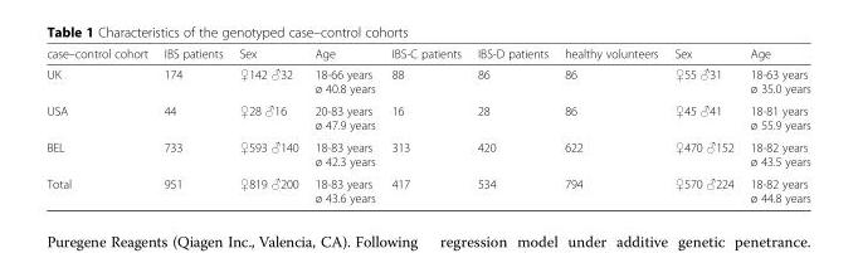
<table><thead><tr><td>case–control cohort</td><td>IBS patients</td><td>Sex</td><td>Age</td><td>IBS-C patients</td><td>IBS-D patients</td><td>healthy volunteers</td><td>Sex</td><td>Age</td></tr></thead><tbody><tr><td>UK</td><td>174</td><td>♀142 ♂32</td><td>18-66 years ø 40.8 years</td><td>88</td><td>86</td><td>86</td><td>♀55 ♂31</td><td>18-63 years ø 35.0 years</td></tr><tr><td>USA</td><td>44</td><td>♀28 ♂16</td><td>20-83 years ø 47.9 years</td><td>16</td><td>28</td><td>86</td><td>♀45 ♂41</td><td>18-81 years ø 55.9 years</td></tr><tr><td>BEL</td><td>733</td><td>♀593 ♂140</td><td>18-83 years ø 42.3 years</td><td>313</td><td>420</td><td>622</td><td>♀470 ♂152</td><td>18-82 years ø 43.5 years</td></tr><tr><td>Total</td><td>951</td><td>♀819 ♂200</td><td>18-83 years ø 43.6 years</td><td>417</td><td>534</td><td>794</td><td>♀570 ♂224</td><td>18-82 years ø 44.8 years</td></tr></tbody></table>